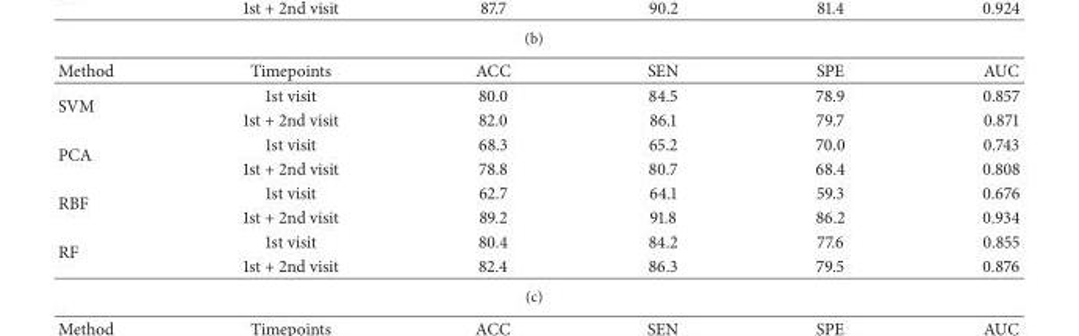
<table><thead><tr><td>Method</td><td>Timepoints</td><td>ACC</td><td>SEN</td><td>SPE</td><td>AUC</td></tr></thead><tbody><tr><td rowspan="2">SVM</td><td>1st visit</td><td>80.0</td><td>84.5</td><td>78.9</td><td>0.857</td></tr><tr><td>1st + 2nd visit</td><td>82.0</td><td>86.1</td><td>79.7</td><td>0.871</td></tr><tr><td rowspan="2">PCA</td><td>1st visit</td><td>68.3</td><td>65.2</td><td>70.0</td><td>0.743</td></tr><tr><td>1st + 2nd visit</td><td>78.8</td><td>80.7</td><td>68.4</td><td>0.808</td></tr><tr><td rowspan="2">RBF</td><td>1st visit</td><td>62.7</td><td>64.1</td><td>59.3</td><td>0.676</td></tr><tr><td>1st + 2nd visit</td><td>89.2</td><td>91.8</td><td>86.2</td><td>0.934</td></tr><tr><td rowspan="2">RF</td><td>1st visit</td><td>80.4</td><td>84.2</td><td>77.6</td><td>0.855</td></tr><tr><td>1st + 2nd visit</td><td>82.4</td><td>86.3</td><td>79.5</td><td>0.876</td></tr></tbody></table>